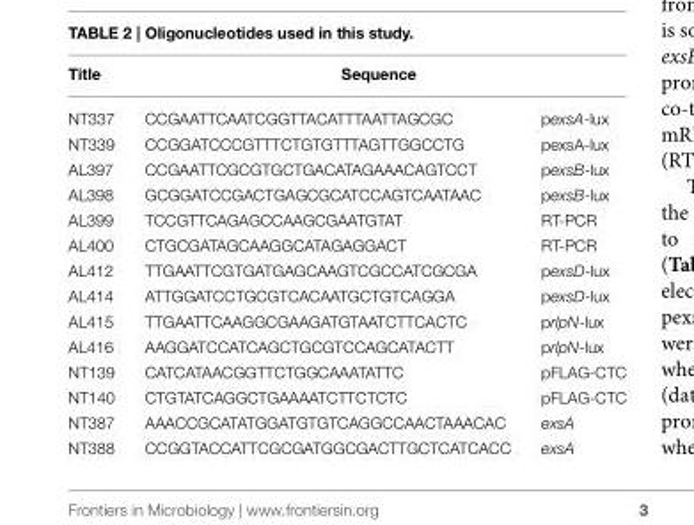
<table><thead><tr><td rowspan="2">Title NT337</td><td colspan="2">Sequence</td></tr><tr><td>CCGAATTCAATCGGTTACATTTAATTAGCGC</td><td>pexsA-lux</td></tr></thead><tbody><tr><td>NT339</td><td>CCGGATCCCGTTTCTGTGTTTAGTTGGCCTG</td><td>pexsA-lux</td></tr><tr><td>AL397</td><td>CCGAATTCGCGTGCTGACATAGAAACAGTCCT</td><td>pexsB-lux</td></tr><tr><td>AL398</td><td>GCGGATCCGACTGAGCGCATCCAGTCAATAAC</td><td>pexsB-lux</td></tr><tr><td>AL399</td><td>TCCGTTCAGAGCCAAGCGAATGTAT</td><td>RT-PCR</td></tr><tr><td>AL400</td><td>CTGCGATAGCAAGGCATAGAGGACT</td><td>RT-PCR</td></tr><tr><td>AL412</td><td>TTGAATTCGTGATGAGCAAGTCGCCATCGCGA</td><td>pexsD-lux</td></tr><tr><td>AL414</td><td>ATTGGATCCTGCGTCACAATGCTGTCAGGA</td><td>pexsD-lux</td></tr><tr><td>AL415</td><td>TTGAATTCAAGGCGAAGATGTAATCTTCACTC</td><td>prlpN-lux</td></tr><tr><td>AL416</td><td>AAGGATCCATCAGCTGCGTCCAGCATACTT</td><td>prlpN-lux</td></tr><tr><td>NT139</td><td>CATCATAACGGTTCTGGCAAATATTC</td><td>pFLAG-CTC</td></tr><tr><td>NT140</td><td>CTGTATCAGGCTGAAAATCTTCTCTC</td><td>pFLAG-CTC</td></tr><tr><td>NT387</td><td>AAACCGCATATGGATGTGTCAGGCCAACTAAACAC</td><td>exsA</td></tr><tr><td>NT388</td><td>CCGGTACCATTCGCGATGGCGACTTGCTCATCACC</td><td>exsA</td></tr></tbody></table>